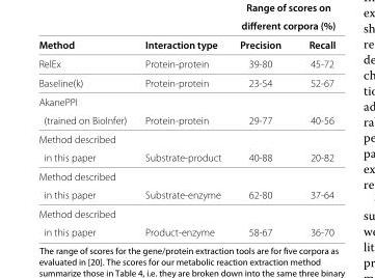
<table><thead><tr><td>Method</td><td>Interaction type</td><td>Precision</td><td>Recall</td></tr></thead><tbody><tr><td>RelEx</td><td>Protein-protein</td><td>39-80</td><td>45-72</td></tr><tr><td>Baseline(k)</td><td>Protein-protein</td><td>23-54</td><td>52-67</td></tr><tr><td colspan="4">AkanePPI</td></tr><tr><td>(trained on BioInfer)</td><td>Protein-protein</td><td>29-77</td><td>40-56</td></tr><tr><td colspan="4">Method described</td></tr><tr><td>in this paper</td><td>Substrate-product</td><td>40-88</td><td>20-82</td></tr><tr><td colspan="4">Method described</td></tr><tr><td>in this paper</td><td>Substrate-enzyme</td><td>62-80</td><td>37-64</td></tr><tr><td colspan="4">Method described</td></tr><tr><td>in this paper</td><td>Product-enzyme</td><td>58-67</td><td>36-70</td></tr></tbody></table>